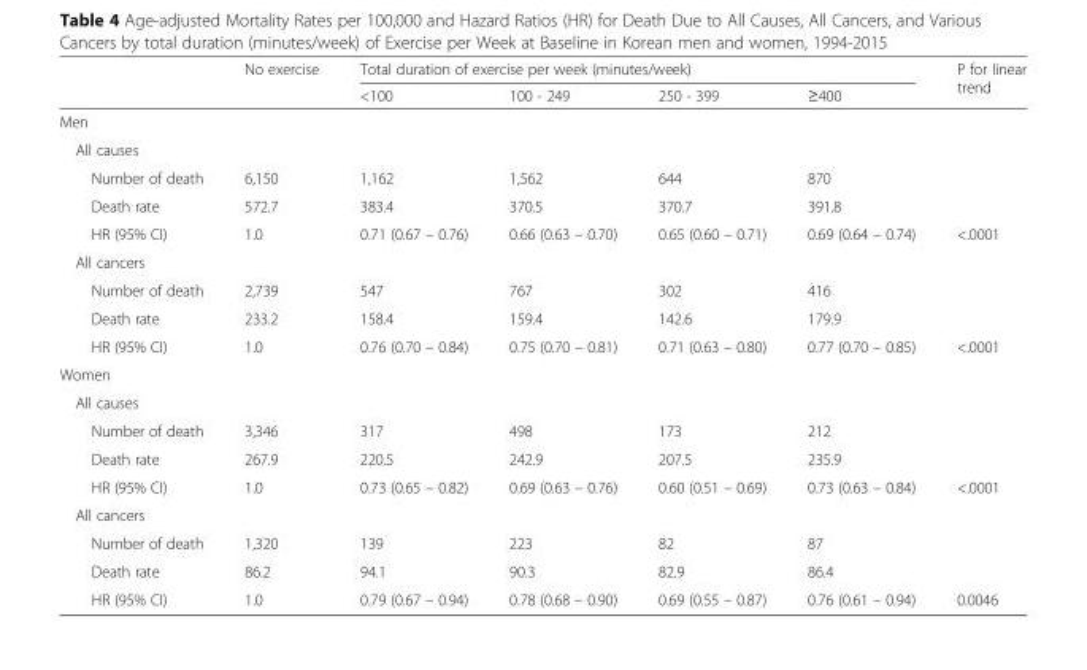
<table><thead><tr><td rowspan="2"></td><td rowspan="2">No exercise</td><td colspan="4">Total duration of exercise per week (minutes/week)</td><td rowspan="2">P for linear trend</td></tr><tr><td>&lt;100</td><td>100 - 249</td><td>250 - 399</td><td>≥400</td></tr></thead><tbody><tr><td colspan="7">Men</td></tr><tr><td colspan="7">All causes</td></tr><tr><td>Number of death</td><td>6,150</td><td>1,162</td><td>1,562</td><td>644</td><td>870</td><td></td></tr><tr><td>Death rate</td><td>572.7</td><td>383.4</td><td>370.5</td><td>370.7</td><td>391.8</td><td></td></tr><tr><td>HR (95% CI)</td><td>1.0</td><td>0.71 (0.67 – 0.76)</td><td>0.66 (0.63 – 0.70)</td><td>0.65 (0.60 – 0.71)</td><td>0.69 (0.64 – 0.74)</td><td>&lt;.0001</td></tr><tr><td colspan="7">All cancers</td></tr><tr><td>Number of death</td><td>2,739</td><td>547</td><td>767</td><td>302</td><td>416</td><td></td></tr><tr><td>Death rate</td><td>233.2</td><td>158.4</td><td>159.4</td><td>142.6</td><td>179.9</td><td></td></tr><tr><td>HR (95% CI)</td><td>1.0</td><td>0.76 (0.70 – 0.84)</td><td>0.75 (0.70 – 0.81)</td><td>0.71 (0.63 – 0.80)</td><td>0.77 (0.70 – 0.85)</td><td>&lt;.0001</td></tr><tr><td colspan="7">Women</td></tr><tr><td colspan="7">All causes</td></tr><tr><td>Number of death</td><td>3,346</td><td>317</td><td>498</td><td>173</td><td>212</td><td></td></tr><tr><td>Death rate</td><td>267.9</td><td>220.5</td><td>242.9</td><td>207.5</td><td>235.9</td><td></td></tr><tr><td>HR (95% CI)</td><td>1.0</td><td>0.73 (0.65 – 0.82)</td><td>0.69 (0.63 – 0.76)</td><td>0.60 (0.51 – 0.69)</td><td>0.73 (0.63 – 0.84)</td><td>&lt;.0001</td></tr><tr><td colspan="7">All cancers</td></tr><tr><td>Number of death</td><td>1,320</td><td>139</td><td>223</td><td>82</td><td>87</td><td></td></tr><tr><td>Death rate</td><td>86.2</td><td>94.1</td><td>90.3</td><td>82.9</td><td>86.4</td><td></td></tr><tr><td>HR (95% CI)</td><td>1.0</td><td>0.79 (0.67 – 0.94)</td><td>0.78 (0.68 – 0.90)</td><td>0.69 (0.55 – 0.87)</td><td>0.76 (0.61 – 0.94)</td><td>0.0046</td></tr></tbody></table>